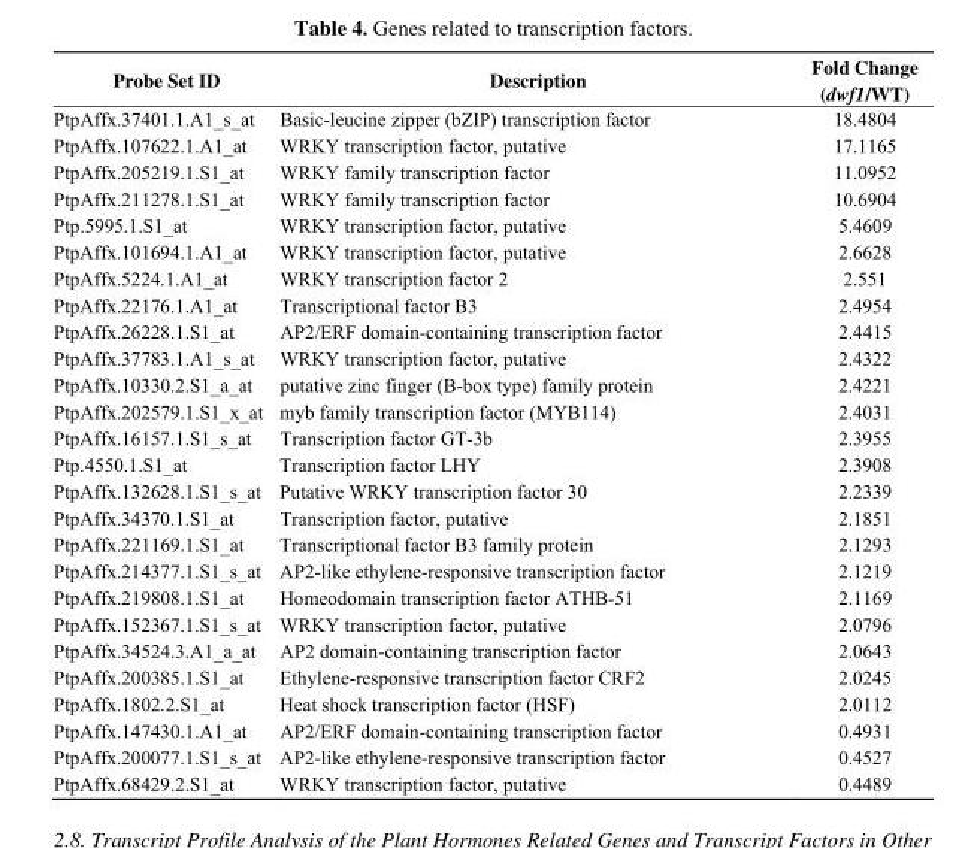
<table><thead><tr><td>Probe Set ID</td><td>Description</td><td>Fold Change (dwf1/WT)</td></tr></thead><tbody><tr><td>PtpAffx.37401.1.A1_s_at</td><td>Basic-leucine zipper (bZIP) transcription factor</td><td>18.4804</td></tr><tr><td>PtpAffx.107622.1.A1_at</td><td>WRKY transcription factor, putative</td><td>17.1165</td></tr><tr><td>PtpAffx.205219.1.S1_at</td><td>WRKY family transcription factor</td><td>11.0952</td></tr><tr><td>PtpAffx.211278.1.S1_at</td><td>WRKY family transcription factor</td><td>10.6904</td></tr><tr><td>Ptp.5995.1.S1_at</td><td>WRKY transcription factor, putative</td><td>5.4609</td></tr><tr><td>PtpAffx.101694.1.A1_at</td><td>WRKY transcription factor, putative</td><td>2.6628</td></tr><tr><td>PtpAffx.5224.1.A1_at</td><td>WRKY transcription factor 2</td><td>2.551</td></tr><tr><td>PtpAffx.22176.1.A1_at</td><td>Transcriptional factor B3</td><td>2.4954</td></tr><tr><td>PtpAffx.26228.1.S1_at</td><td>AP2/ERF domain-containing transcription factor</td><td>2.4415</td></tr><tr><td>PtpAffx.37783.1.A1_s_at</td><td>WRKY transcription factor, putative</td><td>2.4322</td></tr><tr><td>PtpAffx.10330.2.S1_a_at</td><td>putative zinc finger (B-box type) family protein</td><td>2.4221</td></tr><tr><td>PtpAffx.202579.1.S1_x_at</td><td>myb family transcription factor (MYB114)</td><td>2.4031</td></tr><tr><td>PtpAffx.16157.1.S1_s_at</td><td>Transcription factor GT-3b</td><td>2.3955</td></tr><tr><td>Ptp.4550.1.S1_at</td><td>Transcription factor LHY</td><td>2.3908</td></tr><tr><td>PtpAffx.132628.1.S1_s_at</td><td>Putative WRKY transcription factor 30</td><td>2.2339</td></tr><tr><td>PtpAffx.34370.1.S1_at</td><td>Transcription factor, putative</td><td>2.1851</td></tr><tr><td>PtpAffx.221169.1.S1_at</td><td>Transcriptional factor B3 family protein</td><td>2.1293</td></tr><tr><td>PtpAffx.214377.1.S1_s_at</td><td>AP2-like ethylene-responsive transcription factor</td><td>2.1219</td></tr><tr><td>PtpAffx.219808.1.S1_at</td><td>Homeodomain transcription factor ATHB-51</td><td>2.1169</td></tr><tr><td>PtpAffx.152367.1.S1_s_at</td><td>WRKY transcription factor, putative</td><td>2.0796</td></tr><tr><td>PtpAffx.34524.3.A1_a_at</td><td>AP2 domain-containing transcription factor</td><td>2.0643</td></tr><tr><td>PtpAffx.200385.1.S1_at</td><td>Ethylene-responsive transcription factor CRF2</td><td>2.0245</td></tr><tr><td>PtpAffx.1802.2.S1_at</td><td>Heat shock transcription factor (HSF)</td><td>2.0112</td></tr><tr><td>PtpAffx.147430.1.A1_at</td><td>AP2/ERF domain-containing transcription factor</td><td>0.4931</td></tr><tr><td>PtpAffx.200077.1.S1_s_at</td><td>AP2-like ethylene-responsive transcription factor</td><td>0.4527</td></tr><tr><td>PtpAffx.68429.2.S1_at</td><td>WRKY transcription factor, putative</td><td>0.4489</td></tr></tbody></table>